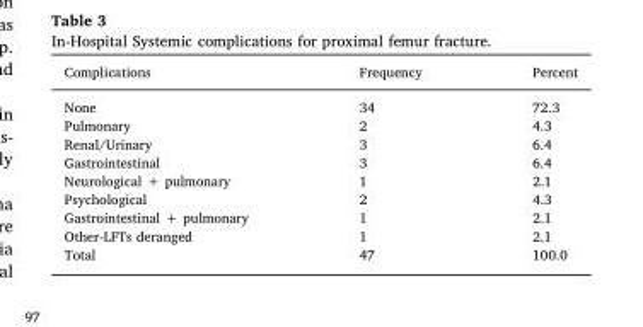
<table><thead><tr><td>Complications</td><td>Frequency</td><td>Percent</td></tr></thead><tbody><tr><td>None</td><td>34</td><td>72.3</td></tr><tr><td>Pulmonary</td><td>2</td><td>4.3</td></tr><tr><td>Renal/Urinary</td><td>3</td><td>6.4</td></tr><tr><td>Gastrointestinal</td><td>3</td><td>6.4</td></tr><tr><td>Neurological + pulmonary</td><td>1</td><td>2.1</td></tr><tr><td>Psychological</td><td>2</td><td>4.3</td></tr><tr><td>Gastrointestinal + pulmonary</td><td>1</td><td>2.1</td></tr><tr><td>Other-LFTs deranged</td><td>1</td><td>2.1</td></tr><tr><td>Total</td><td>47</td><td>100.0</td></tr></tbody></table>